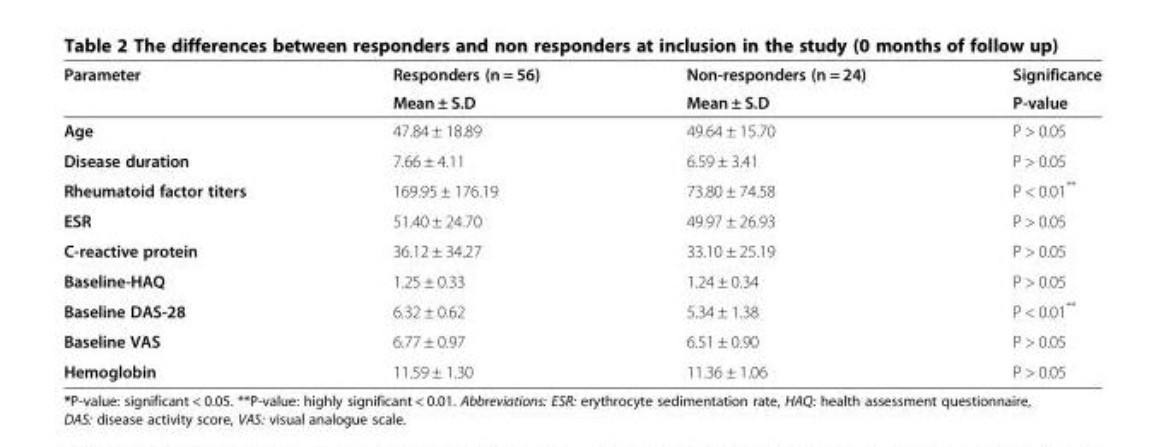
<table><thead><tr><td rowspan="2">Parameter</td><td rowspan="2">Responders (n = 56) Mean ± S.D</td><td rowspan="2">Non-responders (n = 24) Mean ± S.D</td><td rowspan="2">Significance P-value</td></tr><tr></tr></thead><tbody><tr><td>Age</td><td>47.84 ± 18.89</td><td>49.64 ± 15.70</td><td>P &gt; 0.05</td></tr><tr><td>Disease duration</td><td>7.66 ± 4.11</td><td>6.59 ± 3.41</td><td>P &gt; 0.05</td></tr><tr><td>Rheumatoid factor titers</td><td>169.95 ± 176.19</td><td>73.80 ± 74.58</td><td>P &lt; 0.01**</td></tr><tr><td>ESR</td><td>51.40 ± 24.70</td><td>49.97 ± 26.93</td><td>P &gt; 0.05</td></tr><tr><td>C-reactive protein</td><td>36.12 ± 34.27</td><td>33.10 ± 25.19</td><td>P &gt; 0.05</td></tr><tr><td>Baseline-HAQ</td><td>1.25 ± 0.33</td><td>1.24 ± 0.34</td><td>P &gt; 0.05</td></tr><tr><td>Baseline DAS-28</td><td>6.32 ± 0.62</td><td>5.34 ± 1.38</td><td>P &lt; 0.01**</td></tr><tr><td>Baseline VAS</td><td>6.77 ± 0.97</td><td>6.51 ± 0.90</td><td>P &gt; 0.05</td></tr><tr><td>Hemoglobin</td><td>11.59 ± 1.30</td><td>11.36 ± 1.06</td><td>P &gt; 0.05</td></tr></tbody></table>